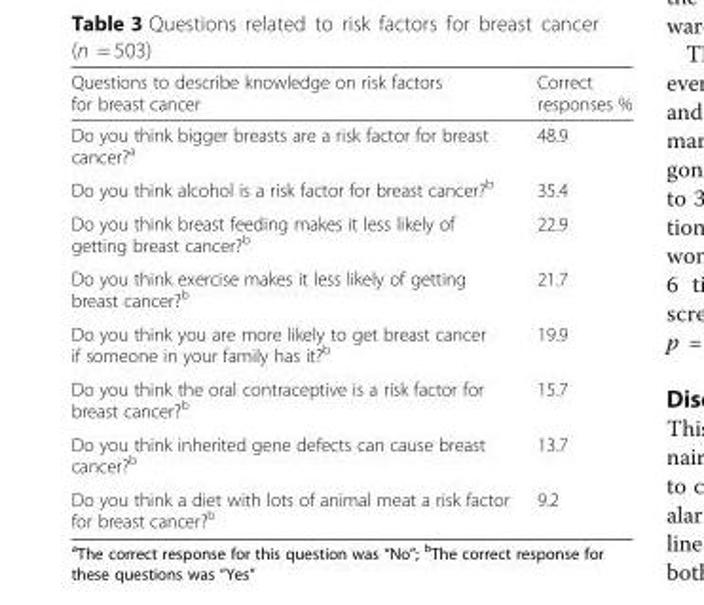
<table><thead><tr><td>Questions to describe knowledge on risk factors for breast cancer</td><td>Correct responses %</td></tr></thead><tbody><tr><td>Do you think bigger breasts are a risk factor for breast cancer?<sup>a</sup></td><td>48.9</td></tr><tr><td>Do you think alcohol is a risk factor for breast cancer?<sup>b</sup></td><td>35.4</td></tr><tr><td>Do you think breast feeding makes it less likely of getting breast cancer?<sup>b</sup></td><td>22.9</td></tr><tr><td>Do you think exercise makes it less likely of getting breast cancer?<sup>b</sup></td><td>21.7</td></tr><tr><td>Do you think you are more likely to get breast cancer if someone in your family has it?<sup>b</sup></td><td>19.9</td></tr><tr><td>Do you think the oral contraceptive is a risk factor for breast cancer?<sup>b</sup></td><td>15.7</td></tr><tr><td>Do you think inherited gene defects can cause breast cancer?<sup>b</sup></td><td>13.7</td></tr><tr><td>Do you think a diet with lots of animal meat a risk factor for breast cancer?<sup>b</sup></td><td>9.2</td></tr></tbody></table>